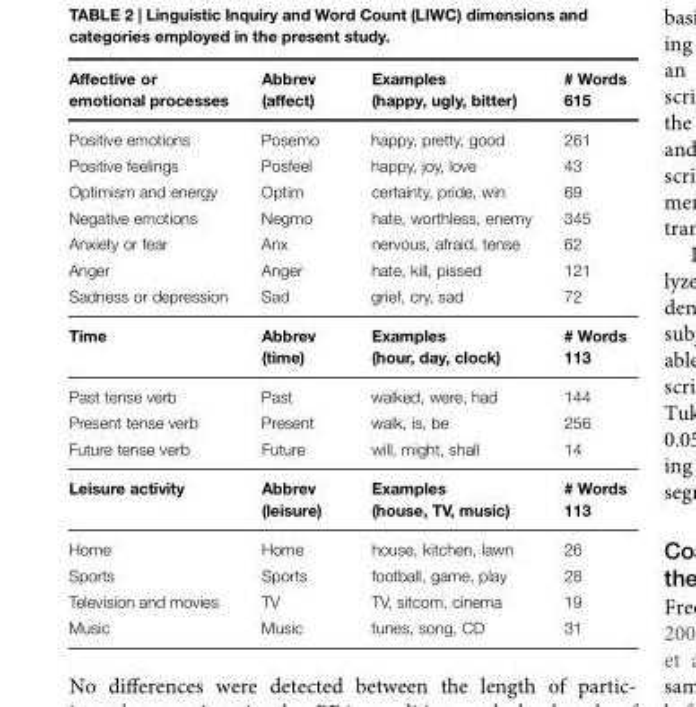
<table><thead><tr><td>Affective or emotional processes</td><td>Abbrev (affect)</td><td>Examples (happy, ugly, bitter)</td><td># Words 615</td></tr></thead><tbody><tr><td>Positive emotions</td><td>Posemo</td><td>happy, pretty, good</td><td>261</td></tr><tr><td>Positive feelings</td><td>Posfeel</td><td>happy, joy, love</td><td>43</td></tr><tr><td>Optimism and energy</td><td>Optim</td><td>certainty, pride, win</td><td>69</td></tr><tr><td>Negative emotions</td><td>Negmo</td><td>hate, worthless, enemy</td><td>345</td></tr><tr><td>Anxiety or fear</td><td>Anx</td><td>nervous, afraid, tense</td><td>62</td></tr><tr><td>Anger</td><td>Anger</td><td>hate, kill, pissed</td><td>121</td></tr><tr><td>Sadness or depression</td><td>Sad</td><td>grief, cry, sad</td><td>72</td></tr><tr><td>Time</td><td>Abbrev (time)</td><td>Examples (hour, day, clock)</td><td># Words 113</td></tr><tr><td>Past tense verb</td><td>Past</td><td>walked, were, had</td><td>144</td></tr><tr><td>Present tense verb</td><td>Present</td><td>walk, is, be</td><td>256</td></tr><tr><td>Future tense verb</td><td>Future</td><td>will, might, shall</td><td>14</td></tr><tr><td>Leisure activity</td><td>Abbrev (leisure)</td><td>Examples (house, TV, music)</td><td># Words 113</td></tr><tr><td>Home</td><td>Home</td><td>house, kitchen, lawn</td><td>26</td></tr><tr><td>Sports</td><td>Sports</td><td>football, game, play</td><td>28</td></tr><tr><td>Television and movies</td><td>TV</td><td>TV, sitcom, cinema</td><td>19</td></tr><tr><td>Music</td><td>Music</td><td>tunes, song, CD</td><td>31</td></tr></tbody></table>